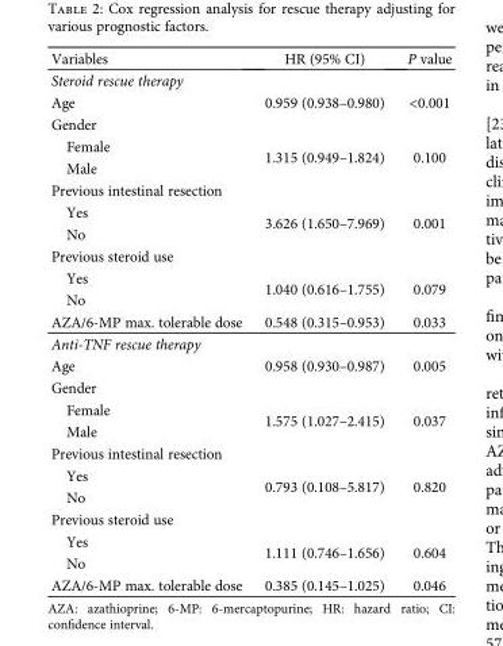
<table><thead><tr><td>Variables</td><td>HR (95% CI)</td><td>P value</td></tr></thead><tbody><tr><td colspan="3">Steroid rescue therapy</td></tr><tr><td>Age</td><td>0.959 (0.938–0.980)</td><td>&lt;0.001</td></tr><tr><td colspan="3">Gender</td></tr><tr><td>Female</td><td rowspan="2">1.315 (0.949–1.824)</td><td rowspan="2">0.100</td></tr><tr><td>Male</td></tr><tr><td colspan="3">Previous intestinal resection</td></tr><tr><td>Yes</td><td rowspan="2">3.626 (1.650–7.969)</td><td rowspan="2">0.001</td></tr><tr><td>No</td></tr><tr><td colspan="3">Previous steroid use</td></tr><tr><td>Yes</td><td rowspan="2">1.040 (0.616–1.755)</td><td rowspan="2">0.079</td></tr><tr><td>No</td></tr><tr><td>AZA/6-MP max. tolerable dose</td><td>0.548 (0.315–0.953)</td><td>0.033</td></tr><tr><td colspan="3">Anti-TNF rescue therapy</td></tr><tr><td>Age</td><td>0.958 (0.930–0.987)</td><td>0.005</td></tr><tr><td colspan="3">Gender</td></tr><tr><td>Female</td><td rowspan="2">1.575 (1.027–2.415)</td><td rowspan="2">0.037</td></tr><tr><td>Male</td></tr><tr><td colspan="3">Previous intestinal resection</td></tr><tr><td>Yes</td><td rowspan="2">0.793 (0.108–5.817)</td><td rowspan="2">0.820</td></tr><tr><td>No</td></tr><tr><td colspan="3">Previous steroid use</td></tr><tr><td>Yes</td><td rowspan="2">1.111 (0.746–1.656)</td><td rowspan="2">0.604</td></tr><tr><td>No</td></tr><tr><td>AZA/6-MP max. tolerable dose</td><td>0.385 (0.145–1.025)</td><td>0.046</td></tr></tbody></table>